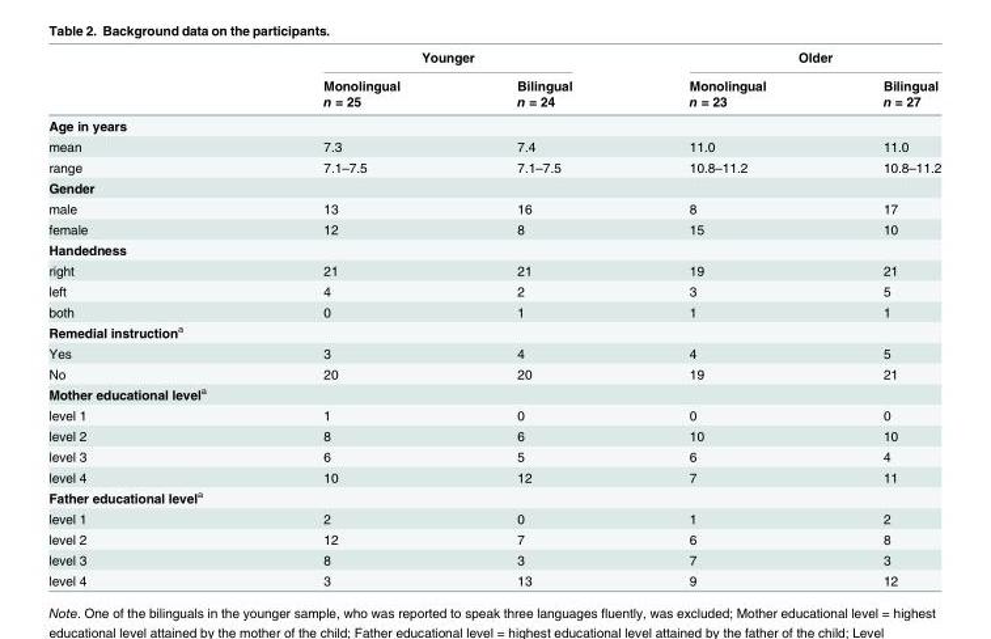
<table><thead><tr><td rowspan="3"></td><td colspan="2">Younger</td><td colspan="2">Older</td></tr><tr><td rowspan="2">Monolingual n = 25</td><td rowspan="2">Bilingual n = 24</td><td rowspan="2">Monolingual n = 23</td><td rowspan="2">Bilingual n = 27</td></tr><tr></tr></thead><tbody><tr><td colspan="5">Age in years</td></tr><tr><td>mean</td><td>7.3</td><td>7.4</td><td>11.0</td><td>11.0</td></tr><tr><td>range</td><td>7.1–7.5</td><td>7.1–7.5</td><td>10.8–11.2</td><td>10.8–11.2</td></tr><tr><td colspan="5">Gender</td></tr><tr><td>male</td><td>13</td><td>16</td><td>8</td><td>17</td></tr><tr><td>female</td><td>12</td><td>8</td><td>15</td><td>10</td></tr><tr><td colspan="5">Handedness</td></tr><tr><td>right</td><td>21</td><td>21</td><td>19</td><td>21</td></tr><tr><td>left</td><td>4</td><td>2</td><td>3</td><td>5</td></tr><tr><td>both</td><td>0</td><td>1</td><td>1</td><td>1</td></tr><tr><td colspan="5">Remedial instruction<sup>a</sup></td></tr><tr><td>Yes</td><td>3</td><td>4</td><td>4</td><td>5</td></tr><tr><td>No</td><td>20</td><td>20</td><td>19</td><td>21</td></tr><tr><td colspan="5">Mother educational level<sup>a</sup></td></tr><tr><td>level 1</td><td>1</td><td>0</td><td>0</td><td>0</td></tr><tr><td>level 2</td><td>8</td><td>6</td><td>10</td><td>10</td></tr><tr><td>level 3</td><td>6</td><td>5</td><td>6</td><td>4</td></tr><tr><td>level 4</td><td>10</td><td>12</td><td>7</td><td>11</td></tr><tr><td colspan="5">Father educational level<sup>a</sup></td></tr><tr><td>level 1</td><td>2</td><td>0</td><td>1</td><td>2</td></tr><tr><td>level 2</td><td>12</td><td>7</td><td>6</td><td>8</td></tr><tr><td>level 3</td><td>8</td><td>3</td><td>7</td><td>3</td></tr><tr><td>level 4</td><td>3</td><td>13</td><td>9</td><td>12</td></tr></tbody></table>